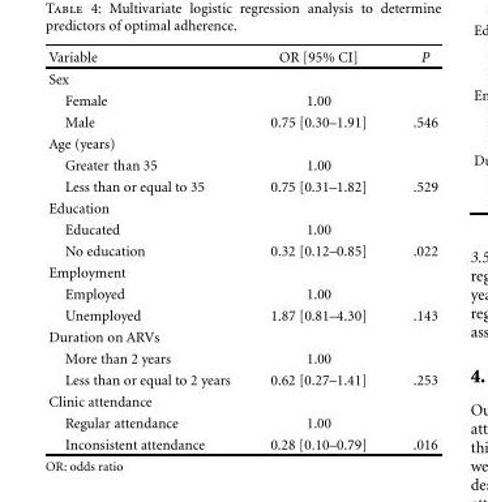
<table><thead><tr><td>Variable</td><td>OR [95% CI]</td><td>P</td></tr></thead><tbody><tr><td colspan="3">Sex</td></tr><tr><td>Female</td><td>1.00</td><td></td></tr><tr><td>Male</td><td>0.75 [0.30–1.91]</td><td>.546</td></tr><tr><td colspan="3">Age (years)</td></tr><tr><td>Greater than 35</td><td>1.00</td><td></td></tr><tr><td>Less than or equal to 35</td><td>0.75 [0.31–1.82]</td><td>.529</td></tr><tr><td colspan="3">Education</td></tr><tr><td>Educated</td><td>1.00</td><td></td></tr><tr><td>No education</td><td>0.32 [0.12–0.85]</td><td>.022</td></tr><tr><td colspan="3">Employment</td></tr><tr><td>Employed</td><td>1.00</td><td></td></tr><tr><td>Unemployed</td><td>1.87 [0.81–4.30]</td><td>.143</td></tr><tr><td colspan="3">Duration on ARVs</td></tr><tr><td>More than 2 years</td><td>1.00</td><td></td></tr><tr><td>Less than or equal to 2 years</td><td>0.62 [0.27–1.41]</td><td>.253</td></tr><tr><td colspan="3">Clinic attendance</td></tr><tr><td>Regular attendance</td><td>1.00</td><td></td></tr><tr><td>Inconsistent attendance</td><td>0.28 [0.10–0.79]</td><td>.016</td></tr></tbody></table>